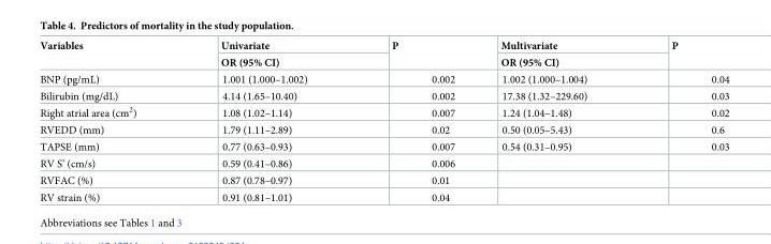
<table><thead><tr><td rowspan="2">Variables</td><td rowspan="2">Univariate OR (95% CI)</td><td rowspan="2">P</td><td rowspan="2">Multivariate OR (95% CI)</td><td rowspan="2">P</td></tr><tr></tr></thead><tbody><tr><td>BNP (pg/mL)</td><td>1.001 (1.000–1.002)</td><td>0.002</td><td>1.002 (1.000–1.004)</td><td>0.04</td></tr><tr><td>Bilirubin (mg/dL)</td><td>4.14 (1.65–10.40)</td><td>0.002</td><td>17.38 (1.32–229.60)</td><td>0.03</td></tr><tr><td>Right atrial area (cm<sup>2</sup>)</td><td>1.08 (1.02–1.14)</td><td>0.007</td><td>1.24 (1.04–1.48)</td><td>0.02</td></tr><tr><td>RVEDD (mm)</td><td>1.79 (1.11–2.89)</td><td>0.02</td><td>0.50 (0.05–5.43)</td><td>0.6</td></tr><tr><td>TAPSE (mm)</td><td>0.77 (0.63–0.93)</td><td>0.007</td><td>0.54 (0.31–0.95)</td><td>0.03</td></tr><tr><td>RV S’ (cm/s)</td><td>0.59 (0.41–0.86)</td><td>0.006</td><td></td><td></td></tr><tr><td>RVFAC (%)</td><td>0.87 (0.78–0.97)</td><td>0.01</td><td></td><td></td></tr><tr><td>RV strain (%)</td><td>0.91 (0.81–1.01)</td><td>0.04</td><td></td><td></td></tr></tbody></table>